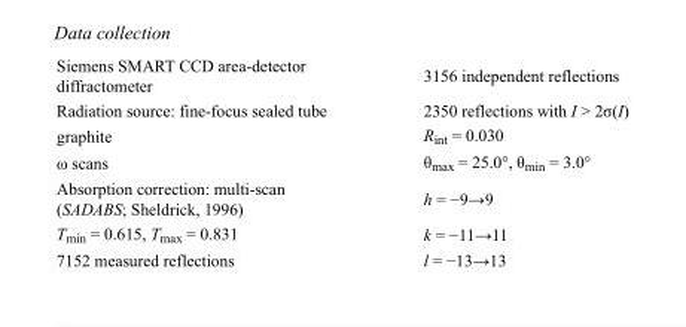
<table><tbody><tr><td>Siemens SMART CCD area-detector diffractometer</td><td>3156 independent reflections</td></tr><tr><td>Radiation source: fine-focus sealed tube</td><td>2350 reflections with I &gt; 2σ(I)</td></tr><tr><td>graphite</td><td>R<sub>int</sub> = 0.030</td></tr><tr><td>ω scans</td><td>θ<sub>max</sub> = 25.0°, θ<sub>min</sub> = 3.0°</td></tr><tr><td>Absorption correction: multi-scan (SADABS; Sheldrick, 1996)</td><td>h = −9→9</td></tr><tr><td>T<sub>min</sub> = 0.615, T<sub>max</sub> = 0.831</td><td>k = −11→11</td></tr><tr><td>7152 measured reflections</td><td>l = −13→13</td></tr></tbody></table>